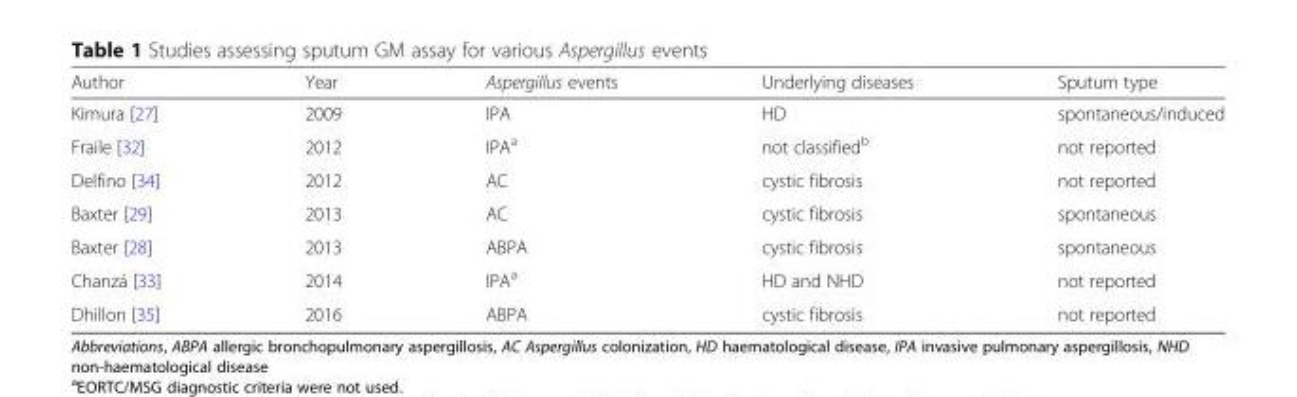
<table><thead><tr><td>Author</td><td>Year</td><td>Aspergillus events</td><td>Underlying diseases</td><td>Sputum type</td></tr></thead><tbody><tr><td>Kimura [27]</td><td>2009</td><td>IPA</td><td>HD</td><td>spontaneous/induced</td></tr><tr><td>Fraile [32]</td><td>2012</td><td>IPA<sup>a</sup></td><td>not classified<sup>b</sup></td><td>not reported</td></tr><tr><td>Delfino [34]</td><td>2012</td><td>AC</td><td>cystic fibrosis</td><td>not reported</td></tr><tr><td>Baxter [29]</td><td>2013</td><td>AC</td><td>cystic fibrosis</td><td>spontaneous</td></tr><tr><td>Baxter [28]</td><td>2013</td><td>ABPA</td><td>cystic fibrosis</td><td>spontaneous</td></tr><tr><td>Chanzá [33]</td><td>2014</td><td>IPA<sup>a</sup></td><td>HD and NHD</td><td>not reported</td></tr><tr><td>Dhillon [35]</td><td>2016</td><td>ABPA</td><td>cystic fibrosis</td><td>not reported</td></tr></tbody></table>